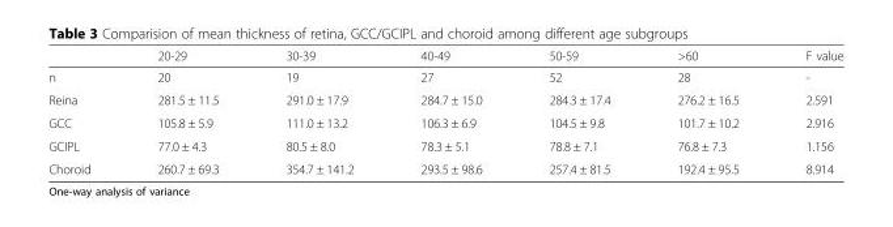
<table><thead><tr><td></td><td>20-29</td><td>30-39</td><td>40-49</td><td>50-59</td><td>&gt;60</td><td>F value</td></tr></thead><tbody><tr><td>n</td><td>20</td><td>19</td><td>27</td><td>52</td><td>28</td><td>-</td></tr><tr><td>Reina</td><td>281.5 ± 11.5</td><td>291.0 ± 17.9</td><td>284.7 ± 15.0</td><td>284.3 ± 17.4</td><td>276.2 ± 16.5</td><td>2.591</td></tr><tr><td>GCC</td><td>105.8 ± 5.9</td><td>111.0 ± 13.2</td><td>106.3 ± 6.9</td><td>104.5 ± 9.8</td><td>101.7 ± 10.2</td><td>2.916</td></tr><tr><td>GCIPL</td><td>77.0 ± 4.3</td><td>80.5 ± 8.0</td><td>78.3 ± 5.1</td><td>78.8 ± 7.1</td><td>76.8 ± 7.3</td><td>1.156</td></tr><tr><td>Choroid</td><td>260.7 ± 69.3</td><td>354.7 ± 141.2</td><td>293.5 ± 98.6</td><td>257.4 ± 81.5</td><td>192.4 ± 95.5</td><td>8.914</td></tr></tbody></table>